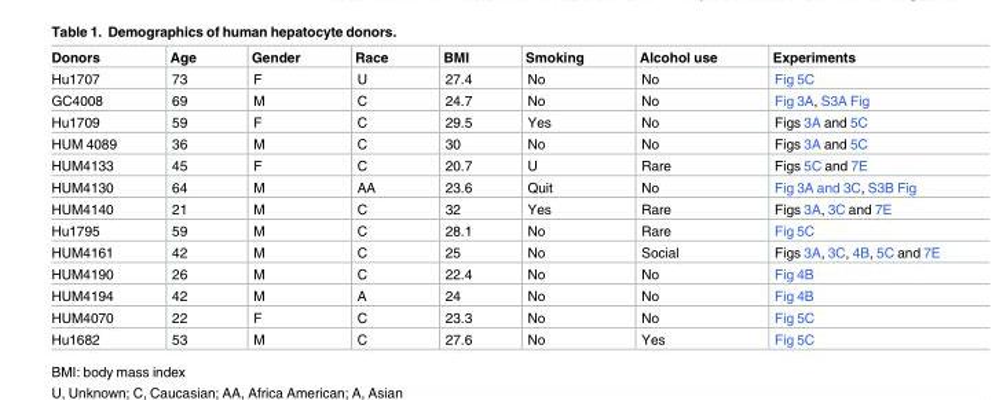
<table><thead><tr><td>Donors</td><td>Age</td><td>Gender</td><td>Race</td><td>BMI</td><td>Smoking</td><td>Alcohol use</td><td>Experiments</td></tr></thead><tbody><tr><td>Hu1707</td><td>73</td><td>F</td><td>U</td><td>27.4</td><td>No</td><td>No</td><td>Fig 5C</td></tr><tr><td>GC4008</td><td>69</td><td>M</td><td>C</td><td>24.7</td><td>No</td><td>No</td><td>Fig 3A, S3A Fig</td></tr><tr><td>Hu1709</td><td>59</td><td>F</td><td>C</td><td>29.5</td><td>Yes</td><td>No</td><td>Figs 3A and 5C</td></tr><tr><td>HUM 4089</td><td>36</td><td>M</td><td>C</td><td>30</td><td>No</td><td>No</td><td>Figs 3A and 5C</td></tr><tr><td>HUM4133</td><td>45</td><td>F</td><td>C</td><td>20.7</td><td>U</td><td>Rare</td><td>Figs 5C and 7E</td></tr><tr><td>HUM4130</td><td>64</td><td>M</td><td>AA</td><td>23.6</td><td>Quit</td><td>No</td><td>Fig 3A and 3C, S3B Fig</td></tr><tr><td>HUM4140</td><td>21</td><td>M</td><td>C</td><td>32</td><td>Yes</td><td>Rare</td><td>Figs 3A, 3C and 7E</td></tr><tr><td>Hu1795</td><td>59</td><td>M</td><td>C</td><td>28.1</td><td>No</td><td>Rare</td><td>Fig 5C</td></tr><tr><td>HUM4161</td><td>42</td><td>M</td><td>C</td><td>25</td><td>No</td><td>Social</td><td>Figs 3A, 3C, 4B, 5C and 7E</td></tr><tr><td>HUM4190</td><td>26</td><td>M</td><td>C</td><td>22.4</td><td>No</td><td>No</td><td>Fig 4B</td></tr><tr><td>HUM4194</td><td>42</td><td>M</td><td>A</td><td>24</td><td>No</td><td>No</td><td>Fig 4B</td></tr><tr><td>HUM4070</td><td>22</td><td>F</td><td>C</td><td>23.3</td><td>No</td><td>No</td><td>Fig 5C</td></tr><tr><td>Hu1682</td><td>53</td><td>M</td><td>C</td><td>27.6</td><td>No</td><td>Yes</td><td>Fig 5C</td></tr></tbody></table>